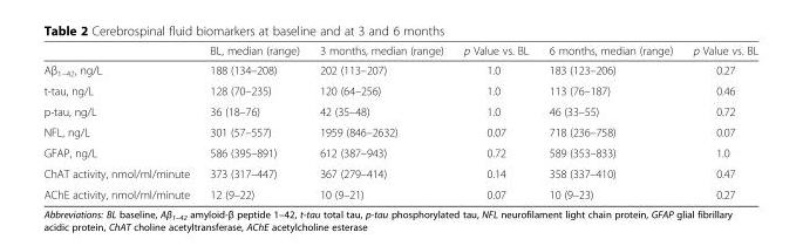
<table><thead><tr><td></td><td>BL, median (range)</td><td>3 months, median (range)</td><td>p Value vs. BL</td><td>6 months, median (range)</td><td>p Value vs. BL</td></tr></thead><tbody><tr><td>Aβ<sub>1–42</sub>, ng/L</td><td>188 (134–208)</td><td>202 (113–207)</td><td>1.0</td><td>183 (123–206)</td><td>0.27</td></tr><tr><td>t-tau, ng/L</td><td>128 (70–235)</td><td>120 (64–256)</td><td>1.0</td><td>113 (76–187)</td><td>0.46</td></tr><tr><td>p-tau, ng/L</td><td>36 (18–76)</td><td>42 (35–48)</td><td>1.0</td><td>46 (33–55)</td><td>0.72</td></tr><tr><td>NFL, ng/L</td><td>301 (57–557)</td><td>1959 (846–2632)</td><td>0.07</td><td>718 (236–758)</td><td>0.07</td></tr><tr><td>GFAP, ng/L</td><td>586 (395–891)</td><td>612 (387–943)</td><td>0.72</td><td>589 (353–833)</td><td>1.0</td></tr><tr><td>ChAT activity, nmol/ml/minute</td><td>373 (317–447)</td><td>367 (279–414)</td><td>0.14</td><td>358 (337–410)</td><td>0.47</td></tr><tr><td>AChE activity, nmol/ml/minute</td><td>12 (9–22)</td><td>10 (9–21)</td><td>0.07</td><td>10 (9–23)</td><td>0.27</td></tr></tbody></table>